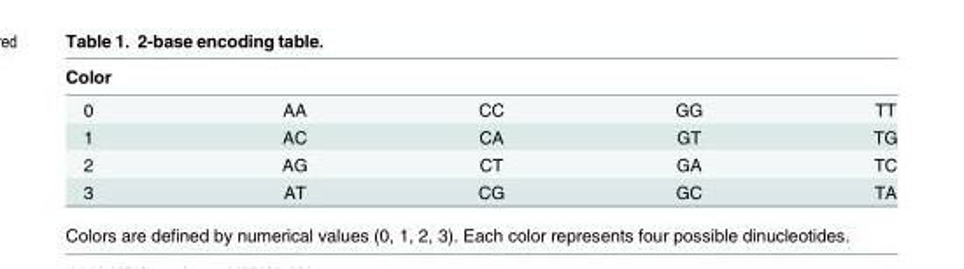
<table><thead><tr><td>Color</td><td></td><td></td><td></td><td></td></tr></thead><tbody><tr><td>0</td><td>AA</td><td>CC</td><td>GG</td><td>TT</td></tr><tr><td>1</td><td>AC</td><td>CA</td><td>GT</td><td>TG</td></tr><tr><td>2</td><td>AG</td><td>CT</td><td>GA</td><td>TC</td></tr><tr><td>3</td><td>AT</td><td>CG</td><td>GC</td><td>TA</td></tr></tbody></table>